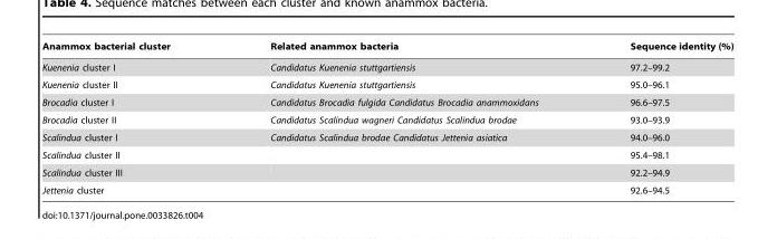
<table><thead><tr><td>Anammox bacterial cluster</td><td>Related anammox bacteria</td><td>Sequence identity (%)</td></tr></thead><tbody><tr><td>Kuenenia cluster I</td><td>Candidatus Kuenenia stuttgartiensis</td><td>97.2–99.2</td></tr><tr><td>Kuenenia cluster II</td><td>Candidatus Kuenenia stuttgartiensis</td><td>95.0–96.1</td></tr><tr><td>Brocadia cluster I</td><td>Candidatus Brocadia fulgida Candidatus Brocadia anammoxidans</td><td>96.6–97.5</td></tr><tr><td>Brocadia cluster II</td><td>Candidatus Scalindua wagneri Candidatus Scalindua brodae</td><td>93.0–93.9</td></tr><tr><td>Scalindua cluster I</td><td>Candidatus Scalindua brodae Candidatus Jettenia asiatica</td><td>94.0–96.0</td></tr><tr><td>Scalindua cluster II</td><td></td><td>95.4–98.1</td></tr><tr><td>Scalindua cluster III</td><td></td><td>92.2–94.9</td></tr><tr><td>Jettenia cluster</td><td></td><td>92.6–94.5</td></tr></tbody></table>